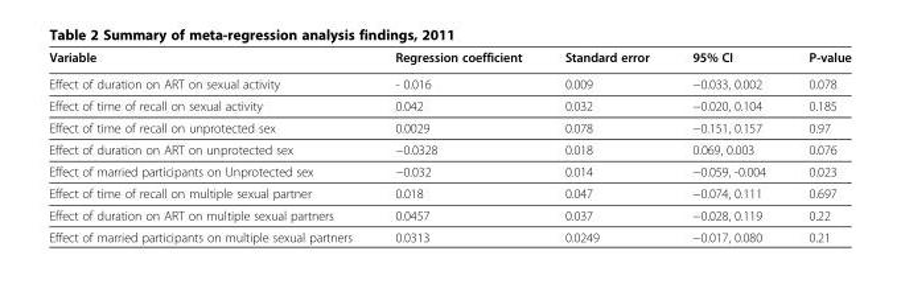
<table><thead><tr><td>Variable</td><td>Regression coefficient</td><td>Standard error</td><td>95% CI</td><td>P-value</td></tr></thead><tbody><tr><td>Effect of duration on ART on sexual activity</td><td>- 0.016</td><td>0.009</td><td>−0.033, 0.002</td><td>0.078</td></tr><tr><td>Effect of time of recall on sexual activity</td><td>0.042</td><td>0.032</td><td>−0.020, 0.104</td><td>0.185</td></tr><tr><td>Effect of time of recall on unprotected sex</td><td>0.0029</td><td>0.078</td><td>−0.151, 0.157</td><td>0.97</td></tr><tr><td>Effect of duration on ART on unprotected sex</td><td>−0.0328</td><td>0.018</td><td>0.069, 0.003</td><td>0.076</td></tr><tr><td>Effect of married participants on Unprotected sex</td><td>−0.032</td><td>0.014</td><td>−0.059, -0.004</td><td>0.023</td></tr><tr><td>Effect of time of recall on multiple sexual partner</td><td>0.018</td><td>0.047</td><td>−0.074, 0.111</td><td>0.697</td></tr><tr><td>Effect of duration on ART on multiple sexual partners</td><td>0.0457</td><td>0.037</td><td>−0.028, 0.119</td><td>0.22</td></tr><tr><td>Effect of married participants on multiple sexual partners</td><td>0.0313</td><td>0.0249</td><td>−0.017, 0.080</td><td>0.21</td></tr></tbody></table>